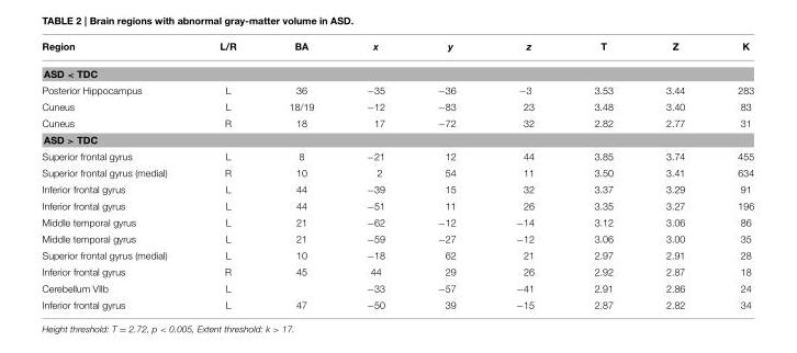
<table><thead><tr><td>Region</td><td>L/R</td><td>BA</td><td>x</td><td>y</td><td>z</td><td>T</td><td>Z</td><td>K</td></tr></thead><tbody><tr><td colspan="9">ASD &lt; TDC</td></tr><tr><td>Posterior Hippocampus</td><td>L</td><td>36</td><td>−35</td><td>−36</td><td>−3</td><td>3.53</td><td>3.44</td><td>283</td></tr><tr><td>Cuneus</td><td>L</td><td>18/19</td><td>−12</td><td>−83</td><td>23</td><td>3.48</td><td>3.40</td><td>83</td></tr><tr><td>Cuneus</td><td>R</td><td>18</td><td>17</td><td>−72</td><td>32</td><td>2.82</td><td>2.77</td><td>31</td></tr><tr><td colspan="9">ASD &gt; TDC</td></tr><tr><td>Superior frontal gyrus</td><td>L</td><td>8</td><td>−21</td><td>12</td><td>44</td><td>3.85</td><td>3.74</td><td>455</td></tr><tr><td>Superior frontal gyrus (medial)</td><td>R</td><td>10</td><td>2</td><td>54</td><td>11</td><td>3.50</td><td>3.41</td><td>634</td></tr><tr><td>Inferior frontal gyrus</td><td>L</td><td>44</td><td>−39</td><td>15</td><td>32</td><td>3.37</td><td>3.29</td><td>91</td></tr><tr><td>Inferior frontal gyrus</td><td>L</td><td>44</td><td>−51</td><td>11</td><td>26</td><td>3.35</td><td>3.27</td><td>196</td></tr><tr><td>Middle temporal gyrus</td><td>L</td><td>21</td><td>−62</td><td>−12</td><td>−14</td><td>3.12</td><td>3.06</td><td>86</td></tr><tr><td>Middle temporal gyrus</td><td>L</td><td>21</td><td>−59</td><td>−27</td><td>−12</td><td>3.06</td><td>3.00</td><td>35</td></tr><tr><td>Superior frontal gyrus (medial)</td><td>L</td><td>10</td><td>−18</td><td>62</td><td>21</td><td>2.97</td><td>2.91</td><td>28</td></tr><tr><td>Inferior frontal gyrus</td><td>R</td><td>45</td><td>44</td><td>29</td><td>26</td><td>2.92</td><td>2.87</td><td>18</td></tr><tr><td>Cerebellum VIIb</td><td>L</td><td></td><td>−33</td><td>−57</td><td>−41</td><td>2.91</td><td>2.86</td><td>24</td></tr><tr><td>Inferior frontal gyrus</td><td>L</td><td>47</td><td>−50</td><td>39</td><td>−15</td><td>2.87</td><td>2.82</td><td>34</td></tr></tbody></table>